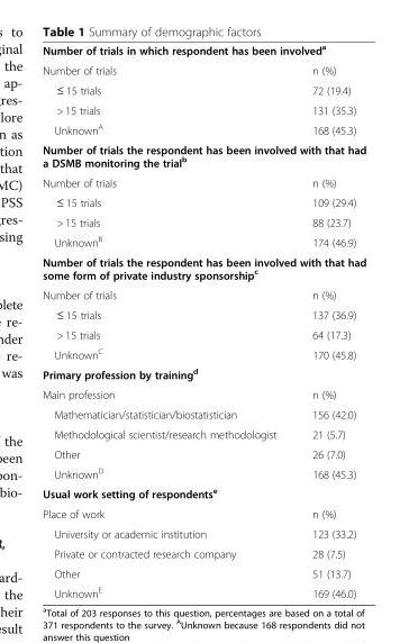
<table><tbody><tr><td colspan="2">Number of trials in which respondent has been involved<sup>a</sup></td></tr><tr><td>Number of trials</td><td>n (%)</td></tr><tr><td>≤ 15 trials</td><td>72 (19.4)</td></tr><tr><td>&gt; 15 trials</td><td>131 (35.3)</td></tr><tr><td>Unknown<sup>A</sup></td><td>168 (45.3)</td></tr><tr><td colspan="2">Number of trials the respondent has been involved with that had a DSMB monitoring the trial<sup>b</sup></td></tr><tr><td>Number of trials</td><td>n (%)</td></tr><tr><td>≤ 15 trials</td><td>109 (29.4)</td></tr><tr><td>&gt; 15 trials</td><td>88 (23.7)</td></tr><tr><td>Unknown<sup>B</sup></td><td>174 (46.9)</td></tr><tr><td colspan="2">Number of trials the respondent has been involved with that had some form of private industry sponsorship<sup>c</sup></td></tr><tr><td>Number of trials</td><td>n (%)</td></tr><tr><td>≤ 15 trials</td><td>137 (36.9)</td></tr><tr><td>&gt; 15 trials</td><td>64 (17.3)</td></tr><tr><td>Unknown<sup>C</sup></td><td>170 (45.8)</td></tr><tr><td colspan="2">Primary profession by training<sup>d</sup></td></tr><tr><td>Main profession</td><td>n (%)</td></tr><tr><td>Mathematician/statistician/biostatistician</td><td>156 (42.0)</td></tr><tr><td>Methodological scientist/research methodologist</td><td>21 (5.7)</td></tr><tr><td>Other</td><td>26 (7.0)</td></tr><tr><td>Unknown<sup>D</sup></td><td>168 (45.3)</td></tr><tr><td colspan="2">Usual work setting of respondents<sup>e</sup></td></tr><tr><td>Place of work</td><td>n (%)</td></tr><tr><td>University or academic institution</td><td>123 (33.2)</td></tr><tr><td>Private or contracted research company</td><td>28 (7.5)</td></tr><tr><td>Other</td><td>51 (13.7)</td></tr><tr><td>Unknown<sup>E</sup></td><td>169 (46.0)</td></tr></tbody></table>